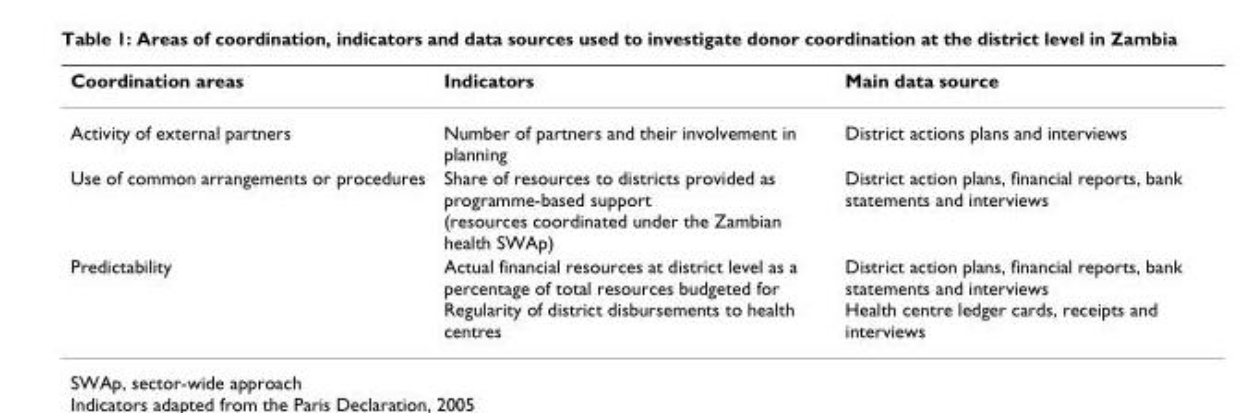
<table><thead><tr><td>Coordination areas</td><td>Indicators</td><td>Main data source</td></tr></thead><tbody><tr><td>Activity of external partners</td><td>Number of partners and their involvement in planning</td><td>District actions plans and interviews</td></tr><tr><td>Use of common arrangements or procedures</td><td>Share of resources to districts provided as programme-based support (resources coordinated under the Zambian health SWAp)</td><td>District action plans, financial reports, bank statements and interviews</td></tr><tr><td>Predictability</td><td>Actual financial resources at district level as a percentage of total resources budgeted for Regularity of district disbursements to health centres</td><td>District action plans, financial reports, bank statements and interviews Health centre ledger cards, receipts and interviews</td></tr></tbody></table>